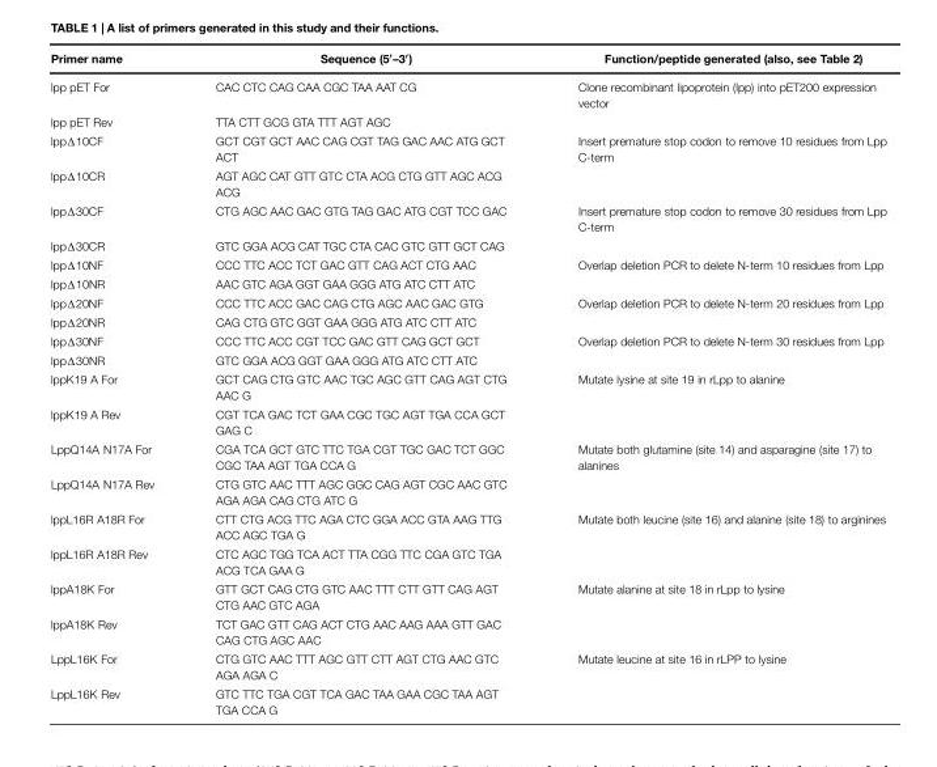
<table><thead><tr><td>Primer name</td><td>Sequence (5′–3′)</td><td>Function/peptide generated (also, see Table 2)</td></tr></thead><tbody><tr><td>lpp pET For</td><td>CAC CTC CAG CAA CGC TAA AAT CG</td><td>Clone recombinant lipoprotein (lpp) into pET200 expression vector</td></tr><tr><td>lpp pET Rev</td><td>TTA CTT GCG GTA TTT AGT AGC</td><td></td></tr><tr><td>lppΔ10CF</td><td>GCT CGT GCT AAC CAG CGT TAG GAC AAC ATG GCT ACT</td><td>Insert premature stop codon to remove 10 residues from Lpp C-term</td></tr><tr><td>lppΔ10CR</td><td>AGT AGC CAT GTT GTC CTA ACG CTG GTT AGC ACG ACG</td><td></td></tr><tr><td>lppΔ30CF</td><td>CTG AGC AAC GAC GTG TAG GAC ATG CGT TCC GAC</td><td>Insert premature stop codon to remove 30 residues from Lpp C-term</td></tr><tr><td>lppΔ30CR</td><td>GTC GGA ACG CAT TGC CTA CAC GTC GTT GCT CAG</td><td></td></tr><tr><td>lppΔ10NF</td><td>CCC TTC ACC TCT GAC GTT CAG ACT CTG AAC</td><td>Overlap deletion PCR to delete N-term 10 residues from Lpp</td></tr><tr><td>lppΔ10NR</td><td>AAC GTC AGA GGT GAA GGG ATG ATC CTT ATC</td><td></td></tr><tr><td>lppΔ20NF</td><td>CCC TTC ACC GAC CAG CTG AGC AAC GAC GTG</td><td>Overlap deletion PCR to delete N-term 20 residues from Lpp</td></tr><tr><td>lppΔ20NR</td><td>CAG CTG GTC GGT GAA GGG ATG ATC CTT ATC</td><td></td></tr><tr><td>lppΔ30NF</td><td>CCC TTC ACC CGT TCC GAC GTT CAG GCT GCT</td><td>Overlap deletion PCR to delete N-term 30 residues from Lpp</td></tr><tr><td>lppΔ30NR</td><td>GTC GGA ACG GGT GAA GGG ATG ATC CTT ATC</td><td></td></tr><tr><td>lppK19 A For</td><td>GCT CAG CTG GTC AAC TGC AGC GTT CAG AGT CTG AAC G</td><td>Mutate lysine at site 19 in rLpp to alanine</td></tr><tr><td>lppK19 A Rev</td><td>CGT TCA GAC TCT GAA CGC TGC AGT TGA CCA GCT GAG C</td><td></td></tr><tr><td>LppQ14A N17A For</td><td>CGA TCA GCT GTC TTC TGA CGT TGC GAC TCT GGC CGC TAA AGT TGA CCA G</td><td>Mutate both glutamine (site 14) and asparagine (site 17) to alanines</td></tr><tr><td>LppQ14A N17A Rev</td><td>CTG GTC AAC TTT AGC GGC CAG AGT CGC AAC GTC AGA AGA CAG CTG ATC G</td><td></td></tr><tr><td>lppL16R A18R For</td><td>CTT CTG ACG TTC AGA CTC GGA ACC GTA AAG TTG ACC AGC TGA G</td><td>Mutate both leucine (site 16) and alanine (site 18) to arginines</td></tr><tr><td>lppL16R A18R Rev</td><td>CTC AGC TGG TCA ACT TTA CGG TTC CGA GTC TGA ACG TCA GAA G</td><td></td></tr><tr><td>lppA18K For</td><td>GTT GCT CAG CTG GTC AAC TTT CTT GTT CAG AGT CTG AAC GTC AGA</td><td>Mutate alanine at site 18 in rLpp to lysine</td></tr><tr><td>lppA18K Rev</td><td>TCT GAC GTT CAG ACT CTG AAC AAG AAA GTT GAC CAG CTG AGC AAC</td><td></td></tr><tr><td>LppL16K For</td><td>CTG GTC AAC TTT AGC GTT CTT AGT CTG AAC GTC AGA AGA C</td><td>Mutate leucine at site 16 in rLPP to lysine</td></tr><tr><td>LppL16K Rev</td><td>GTC TTC TGA CGT TCA GAC TAA GAA CGC TAA AGT TGA CCA G</td><td></td></tr></tbody></table>